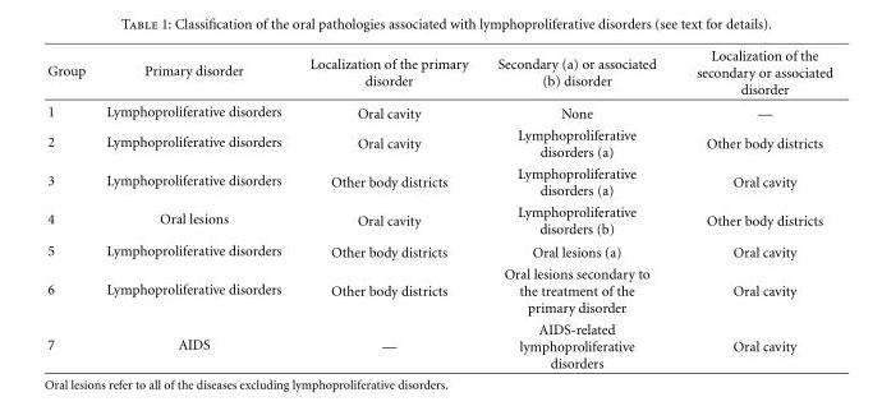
<table><thead><tr><td>Group</td><td>Primary disorder</td><td>Localization of the primary disorder</td><td>Secondary (a) or associated (b) disorder</td><td>Localization of the secondary or associated disorder</td></tr></thead><tbody><tr><td>1</td><td>Lymphoproliferative disorders</td><td>Oral cavity</td><td>None</td><td>—</td></tr><tr><td>2</td><td>Lymphoproliferative disorders</td><td>Oral cavity</td><td>Lymphoproliferative disorders (a)</td><td>Other body districts</td></tr><tr><td>3</td><td>Lymphoproliferative disorders</td><td>Other body districts</td><td>Lymphoproliferative disorders (a)</td><td>Oral cavity</td></tr><tr><td>4</td><td>Oral lesions</td><td>Oral cavity</td><td>Lymphoproliferative disorders (b)</td><td>Other body districts</td></tr><tr><td>5</td><td>Lymphoproliferative disorders</td><td>Other body districts</td><td>Oral lesions (a)</td><td>Oral cavity</td></tr><tr><td>6</td><td>Lymphoproliferative disorders</td><td>Other body districts</td><td>Oral lesions secondary to the treatment of the primary disorder</td><td>Oral cavity</td></tr><tr><td>7</td><td>AIDS</td><td>—</td><td>AIDS-related lymphoproliferative disorders</td><td>Oral cavity</td></tr></tbody></table>